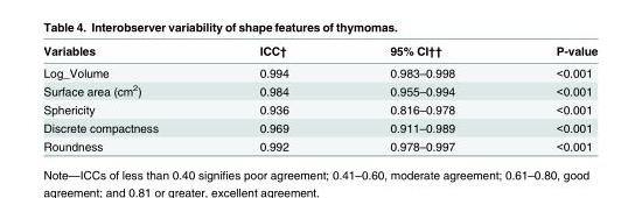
<table><thead><tr><td>Variables</td><td>ICC†</td><td>95% CI††</td><td>P-value</td></tr></thead><tbody><tr><td>Log_Volume</td><td>0.994</td><td>0.983–0.998</td><td>&lt;0.001</td></tr><tr><td>Surface area (cm<sup>2</sup>)</td><td>0.984</td><td>0.955–0.994</td><td>&lt;0.001</td></tr><tr><td>Sphericity</td><td>0.936</td><td>0.816–0.978</td><td>&lt;0.001</td></tr><tr><td>Discrete compactness</td><td>0.969</td><td>0.911–0.989</td><td>&lt;0.001</td></tr><tr><td>Roundness</td><td>0.992</td><td>0.978–0.997</td><td>&lt;0.001</td></tr></tbody></table>